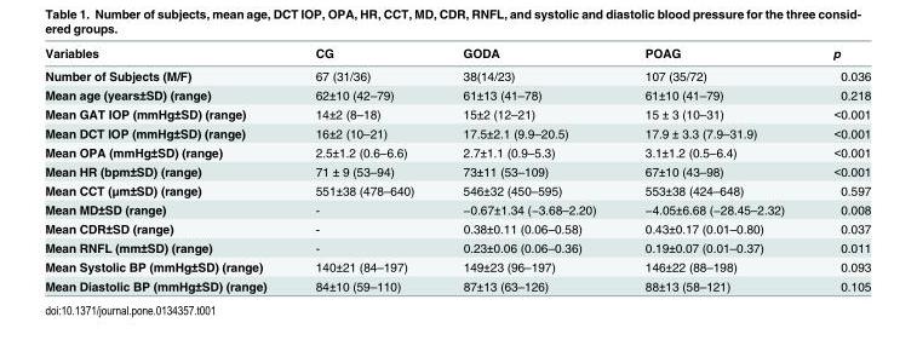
<table><thead><tr><td>Variables</td><td>CG</td><td>GODA</td><td>POAG</td><td>p</td></tr></thead><tbody><tr><td>Number of Subjects (M/F)</td><td>67 (31/36)</td><td>38(14/23)</td><td>107 (35/72)</td><td>0.036</td></tr><tr><td>Mean age (years±SD) (range)</td><td>62±10 (42–79)</td><td>61±13 (41–78)</td><td>61±10 (41–79)</td><td>0.218</td></tr><tr><td>Mean GAT IOP (mmHg±SD) (range)</td><td>14±2 (8–18)</td><td>15±2 (12–21)</td><td>15 ± 3 (10–31)</td><td>&lt;0.001</td></tr><tr><td>Mean DCT IOP (mmHg±SD) (range)</td><td>16±2 (10–21)</td><td>17.5±2.1 (9.9–20.5)</td><td>17.9 ± 3.3 (7.9–31.9)</td><td>&lt;0.001</td></tr><tr><td>Mean OPA (mmHg±SD) (range)</td><td>2.5±1.2 (0.6–6.6)</td><td>2.7±1.1 (0.9–5.3)</td><td>3.1±1.2 (0.5–6.4)</td><td>&lt;0.001</td></tr><tr><td>Mean HR (bpm±SD) (range)</td><td>71 ± 9 (53–94)</td><td>73±11 (53–109)</td><td>67±10 (43–98)</td><td>&lt;0.001</td></tr><tr><td>Mean CCT (μm±SD) (range)</td><td>551±38 (478–640)</td><td>546±32 (450–595)</td><td>553±38 (424–648)</td><td>0.597</td></tr><tr><td>Mean MD±SD (range)</td><td>-</td><td>−0.67±1.34 (−3.68–2.20)</td><td>−4.05±6.68 (−28.45–2.32)</td><td>0.008</td></tr><tr><td>Mean CDR±SD (range)</td><td>-</td><td>0.38±0.11 (0.06–0.58)</td><td>0.43±0.17 (0.01–0.80)</td><td>0.037</td></tr><tr><td>Mean RNFL (mm±SD) (range)</td><td>-</td><td>0.23±0.06 (0.06–0.36)</td><td>0.19±0.07 (0.01–0.37)</td><td>0.011</td></tr><tr><td>Mean Systolic BP (mmHg±SD) (range)</td><td>140±21 (84–197)</td><td>149±23 (96–197)</td><td>146±22 (88–198)</td><td>0.093</td></tr><tr><td>Mean Diastolic BP (mmHg±SD) (range)</td><td>84±10 (59–110)</td><td>87±13 (63–126)</td><td>88±13 (58–121)</td><td>0.105</td></tr></tbody></table>